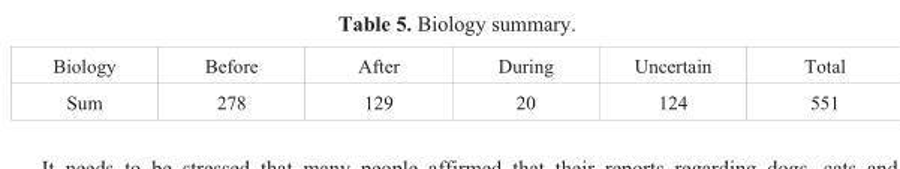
<table><tbody><tr><td>Biology</td><td>Before</td><td>After</td><td>During</td><td>Uncertain</td><td>Total</td></tr><tr><td>Sum</td><td>278</td><td>129</td><td>20</td><td>124</td><td>551</td></tr></tbody></table>